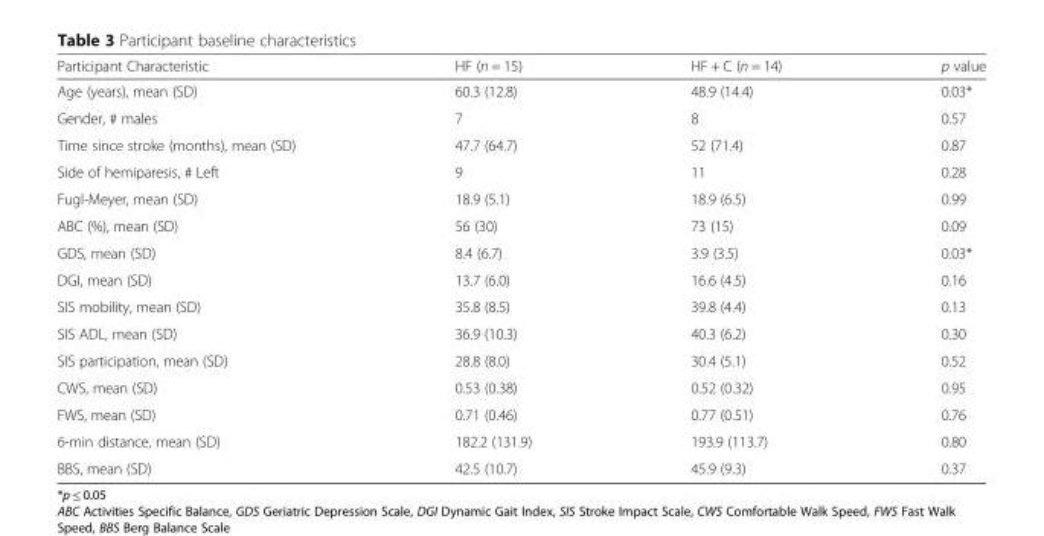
<table><thead><tr><td>Participant Characteristic</td><td>HF (n = 15)</td><td>HF + C (n = 14)</td><td>p value</td></tr></thead><tbody><tr><td>Age (years), mean (SD)</td><td>60.3 (12.8)</td><td>48.9 (14.4)</td><td>0.03*</td></tr><tr><td>Gender, # males</td><td>7</td><td>8</td><td>0.57</td></tr><tr><td>Time since stroke (months), mean (SD)</td><td>47.7 (64.7)</td><td>52 (71.4)</td><td>0.87</td></tr><tr><td>Side of hemiparesis, # Left</td><td>9</td><td>11</td><td>0.28</td></tr><tr><td>Fugl-Meyer, mean (SD)</td><td>18.9 (5.1)</td><td>18.9 (6.5)</td><td>0.99</td></tr><tr><td>ABC (%), mean (SD)</td><td>56 (30)</td><td>73 (15)</td><td>0.09</td></tr><tr><td>GDS, mean (SD)</td><td>8.4 (6.7)</td><td>3.9 (3.5)</td><td>0.03*</td></tr><tr><td>DGI, mean (SD)</td><td>13.7 (6.0)</td><td>16.6 (4.5)</td><td>0.16</td></tr><tr><td>SIS mobility, mean (SD)</td><td>35.8 (8.5)</td><td>39.8 (4.4)</td><td>0.13</td></tr><tr><td>SIS ADL, mean (SD)</td><td>36.9 (10.3)</td><td>40.3 (6.2)</td><td>0.30</td></tr><tr><td>SIS participation, mean (SD)</td><td>28.8 (8.0)</td><td>30.4 (5.1)</td><td>0.52</td></tr><tr><td>CWS, mean (SD)</td><td>0.53 (0.38)</td><td>0.52 (0.32)</td><td>0.95</td></tr><tr><td>FWS, mean (SD)</td><td>0.71 (0.46)</td><td>0.77 (0.51)</td><td>0.76</td></tr><tr><td>6-min distance, mean (SD)</td><td>182.2 (131.9)</td><td>193.9 (113.7)</td><td>0.80</td></tr><tr><td>BBS, mean (SD)</td><td>42.5 (10.7)</td><td>45.9 (9.3)</td><td>0.37</td></tr></tbody></table>